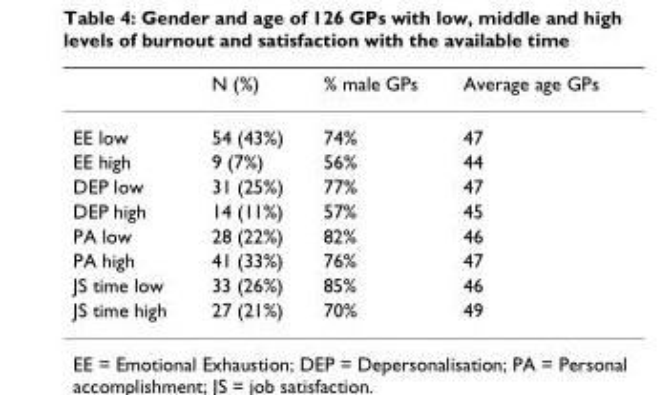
<table><thead><tr><td></td><td>N (%)</td><td>% male GPs</td><td>Average age GPs</td></tr></thead><tbody><tr><td>EE low</td><td>54 (43%)</td><td>74%</td><td>47</td></tr><tr><td>EE high</td><td>9 (7%)</td><td>56%</td><td>44</td></tr><tr><td>DEP low</td><td>31 (25%)</td><td>77%</td><td>47</td></tr><tr><td>DEP high</td><td>14 (11%)</td><td>57%</td><td>45</td></tr><tr><td>PA low</td><td>28 (22%)</td><td>82%</td><td>46</td></tr><tr><td>PA high</td><td>41 (33%)</td><td>76%</td><td>47</td></tr><tr><td>JS time low</td><td>33 (26%)</td><td>85%</td><td>46</td></tr><tr><td>JS time high</td><td>27 (21%)</td><td>70%</td><td>49</td></tr></tbody></table>